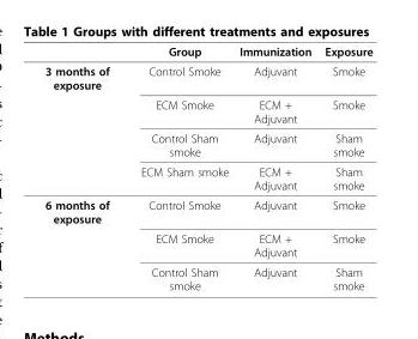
<table><thead><tr><td></td><td>Group</td><td>Immunization</td><td>Exposure</td></tr></thead><tbody><tr><td rowspan="4">3 months of exposure</td><td>Control Smoke</td><td>Adjuvant</td><td>Smoke</td></tr><tr><td>ECM Smoke</td><td>ECM + Adjuvant</td><td>Smoke</td></tr><tr><td>Control Sham smoke</td><td>Adjuvant</td><td>Sham smoke</td></tr><tr><td>ECM Sham smoke</td><td>ECM + Adjuvant</td><td>Sham smoke</td></tr><tr><td rowspan="3">6 months of exposure</td><td>Control Smoke</td><td>Adjuvant</td><td>Smoke</td></tr><tr><td>ECM Smoke</td><td>ECM + Adjuvant</td><td>Smoke</td></tr><tr><td>Control Sham smoke</td><td>Adjuvant</td><td>Sham smoke</td></tr></tbody></table>